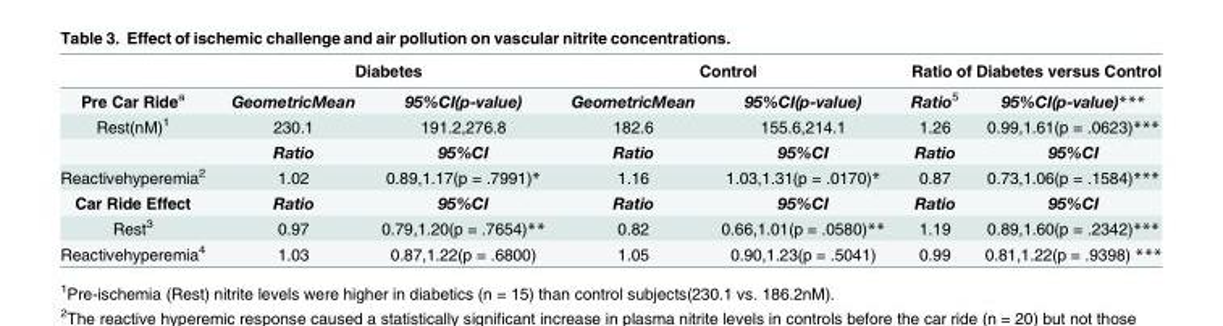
<table><thead><tr><td rowspan="2">Pre Car Ride<sup>a</sup></td><td colspan="2">Diabetes</td><td colspan="2">Control</td><td colspan="2">Ratio of Diabetes versus Control</td></tr><tr><td>GeometricMean</td><td>95%CI(p-value)</td><td>GeometricMean</td><td>95%CI(p-value)</td><td>Ratio<sup>5</sup></td><td>95%CI(p-value)***</td></tr></thead><tbody><tr><td rowspan="2">Rest(nM)<sup>1</sup></td><td>230.1</td><td>191.2,276.8</td><td>182.6</td><td>155.6,214.1</td><td>1.26</td><td>0.99,1.61(p = .0623)***</td></tr><tr><td>Ratio</td><td>95%CI</td><td>Ratio</td><td>95%CI</td><td>Ratio</td><td>95%CI</td></tr><tr><td>Reactivehyperemia<sup>2</sup></td><td>1.02</td><td>0.89,1.17(p = .7991)*</td><td>1.16</td><td>1.03,1.31(p = .0170)*</td><td>0.87</td><td>0.73,1.06(p = .1584)***</td></tr><tr><td>Car Ride Effect</td><td>Ratio</td><td>95%CI</td><td>Ratio</td><td>95%CI</td><td>Ratio</td><td>95%CI</td></tr><tr><td>Rest<sup>3</sup></td><td>0.97</td><td>0.79,1.20(p = .7654)**</td><td>0.82</td><td>0.66,1.01(p = .0580)**</td><td>1.19</td><td>0.89,1.60(p = .2342)***</td></tr><tr><td>Reactivehyperemia<sup>4</sup></td><td>1.03</td><td>0.87,1.22(p = .6800)</td><td>1.05</td><td>0.90,1.23(p = .5041)</td><td>0.99</td><td>0.81,1.22(p = .9398) ***</td></tr></tbody></table>